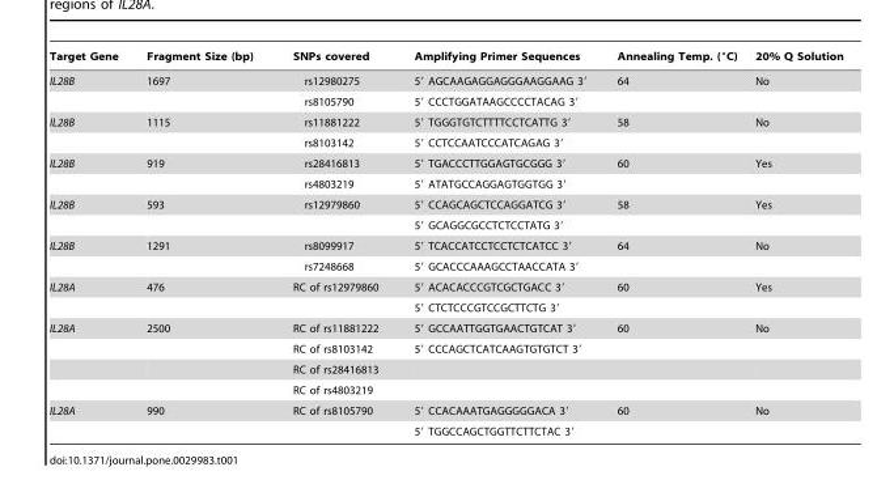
<table><thead><tr><td>Target Gene</td><td>Fragment Size (bp)</td><td>SNPs covered</td><td>Amplifying Primer Sequences</td><td>Annealing Temp. (°C)</td><td>20% Q Solution</td></tr></thead><tbody><tr><td rowspan="2">IL28B</td><td>1697</td><td>rs12980275</td><td>5′ AGCAAGAGGAGGGAAGGAAG 3′</td><td>64</td><td>No</td></tr><tr><td></td><td>rs8105790</td><td>5′ CCCTGGATAAGCCCCTACAG 3′</td><td></td><td></td></tr><tr><td rowspan="2">IL28B</td><td>1115</td><td>rs11881222</td><td>5′ TGGGTGTCTTTTCCTCATTG 3′</td><td>58</td><td>No</td></tr><tr><td></td><td>rs8103142</td><td>5′ CCTCCAATCCCATCAGAG 3′</td><td></td><td></td></tr><tr><td rowspan="2">IL28B</td><td>919</td><td>rs28416813</td><td>5′ TGACCCTTGGAGTGCGGG 3′</td><td>60</td><td>Yes</td></tr><tr><td></td><td>rs4803219</td><td>5′ ATATGCCAGGAGTGGTGG 3′</td><td></td><td></td></tr><tr><td rowspan="2">IL28B</td><td>593</td><td>rs12979860</td><td>5′ CCAGCAGCTCCAGGATCG 3′</td><td>58</td><td>Yes</td></tr><tr><td></td><td></td><td>5′ GCAGGCGCCTCTCCTATG 3′</td><td></td><td></td></tr><tr><td rowspan="2">IL28B</td><td>1291</td><td>rs8099917</td><td>5′ TCACCATCCTCCTCTCATCC 3′</td><td>64</td><td>No</td></tr><tr><td></td><td>rs7248668</td><td>5′ GCACCCAAAGCCTAACCATA 3′</td><td></td><td></td></tr><tr><td rowspan="2">IL28A</td><td>476</td><td>RC of rs12979860</td><td>5′ ACACACCCGTCGCTGACC 3′</td><td>60</td><td>Yes</td></tr><tr><td></td><td></td><td>5′ CTCTCCCGTCCGCTTCTG 3′</td><td></td><td></td></tr><tr><td rowspan="4">IL28A</td><td>2500</td><td>RC of rs11881222</td><td>5′ GCCAATTGGTGAACTGTCAT 3′</td><td>60</td><td>No</td></tr><tr><td></td><td>RC of rs8103142</td><td>5′ CCCAGCTCATCAAGTGTGTCT 3′</td><td></td><td></td></tr><tr><td></td><td>RC of rs28416813</td><td></td><td></td><td></td></tr><tr><td></td><td>RC of rs4803219</td><td></td><td></td><td></td></tr><tr><td rowspan="2">IL28A</td><td>990</td><td>RC of rs8105790</td><td>5′ CCACAAATGAGGGGGACA 3′</td><td>60</td><td>No</td></tr><tr><td></td><td></td><td>5′ TGGCCAGCTGGTTCTTCTAC 3′</td><td></td><td></td></tr></tbody></table>